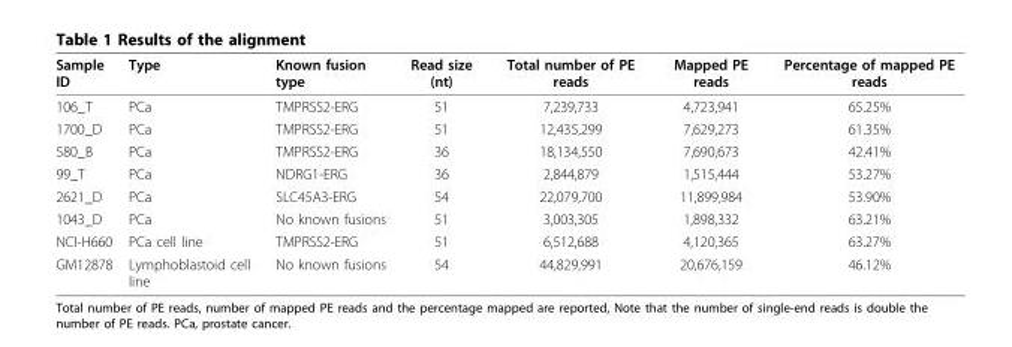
<table><thead><tr><td>Sample ID</td><td>Type</td><td>Known fusion type</td><td>Read size (nt)</td><td>Total number of PE reads</td><td>Mapped PE reads</td><td>Percentage of mapped PE reads</td></tr></thead><tbody><tr><td>106_T</td><td>PCa</td><td>TMPRSS2-ERG</td><td>51</td><td>7,239,733</td><td>4,723,941</td><td>65.25%</td></tr><tr><td>1700_D</td><td>PCa</td><td>TMPRSS2-ERG</td><td>51</td><td>12,435,299</td><td>7,629,273</td><td>61.35%</td></tr><tr><td>580_B</td><td>PCa</td><td>TMPRSS2-ERG</td><td>36</td><td>18,134,550</td><td>7,690,673</td><td>42.41%</td></tr><tr><td>99_T</td><td>PCa</td><td>NDRG1-ERG</td><td>36</td><td>2,844,879</td><td>1,515,444</td><td>53.27%</td></tr><tr><td>2621_D</td><td>PCa</td><td>SLC45A3-ERG</td><td>54</td><td>22,079,700</td><td>11,899,984</td><td>53.90%</td></tr><tr><td>1043_D</td><td>PCa</td><td>No known fusions</td><td>51</td><td>3,003,305</td><td>1,898,332</td><td>63.21%</td></tr><tr><td>NCI-H660</td><td>PCa cell line</td><td>TMPRSS2-ERG</td><td>51</td><td>6,512,688</td><td>4,120,365</td><td>63.27%</td></tr><tr><td>GM12878</td><td>Lymphoblastoid cell line</td><td>No known fusions</td><td>54</td><td>44,829,991</td><td>20,676,159</td><td>46.12%</td></tr></tbody></table>